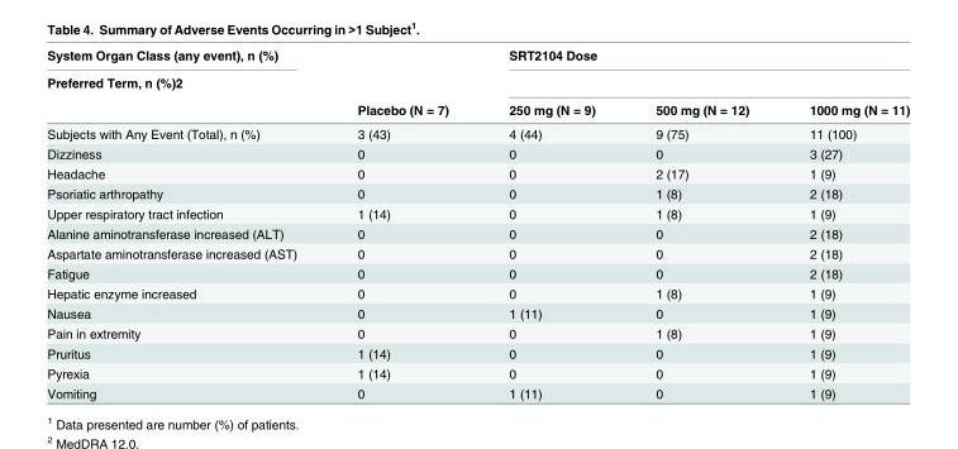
<table><thead><tr><td rowspan="3">System Organ Class (any event), n (%) Preferred Term, n (%)<sup>2</sup></td><td rowspan="3">Placebo (N = 7)</td><td colspan="3">SRT2104 Dose</td></tr><tr><td rowspan="2">250 mg (N = 9)</td><td rowspan="2">500 mg (N = 12)</td><td rowspan="2">1000 mg (N = 11)</td></tr><tr></tr></thead><tbody><tr><td>Subjects with Any Event (Total), n (%)</td><td>3 (43)</td><td>4 (44)</td><td>9 (75)</td><td>11 (100)</td></tr><tr><td>Dizziness</td><td>0</td><td>0</td><td>0</td><td>3 (27)</td></tr><tr><td>Headache</td><td>0</td><td>0</td><td>2 (17)</td><td>1 (9)</td></tr><tr><td>Psoriatic arthropathy</td><td>0</td><td>0</td><td>1 (8)</td><td>2 (18)</td></tr><tr><td>Upper respiratory tract infection</td><td>1 (14)</td><td>0</td><td>1 (8)</td><td>1 (9)</td></tr><tr><td>Alanine aminotransferase increased (ALT)</td><td>0</td><td>0</td><td>0</td><td>2 (18)</td></tr><tr><td>Aspartate aminotransferase increased (AST)</td><td>0</td><td>0</td><td>0</td><td>2 (18)</td></tr><tr><td>Fatigue</td><td>0</td><td>0</td><td>0</td><td>2 (18)</td></tr><tr><td>Hepatic enzyme increased</td><td>0</td><td>0</td><td>1 (8)</td><td>1 (9)</td></tr><tr><td>Nausea</td><td>0</td><td>1 (11)</td><td>0</td><td>1 (9)</td></tr><tr><td>Pain in extremity</td><td>0</td><td>0</td><td>1 (8)</td><td>1 (9)</td></tr><tr><td>Pruritus</td><td>1 (14)</td><td>0</td><td>0</td><td>1 (9)</td></tr><tr><td>Pyrexia</td><td>1 (14)</td><td>0</td><td>0</td><td>1 (9)</td></tr><tr><td>Vomiting</td><td>0</td><td>1 (11)</td><td>0</td><td>1 (9)</td></tr></tbody></table>